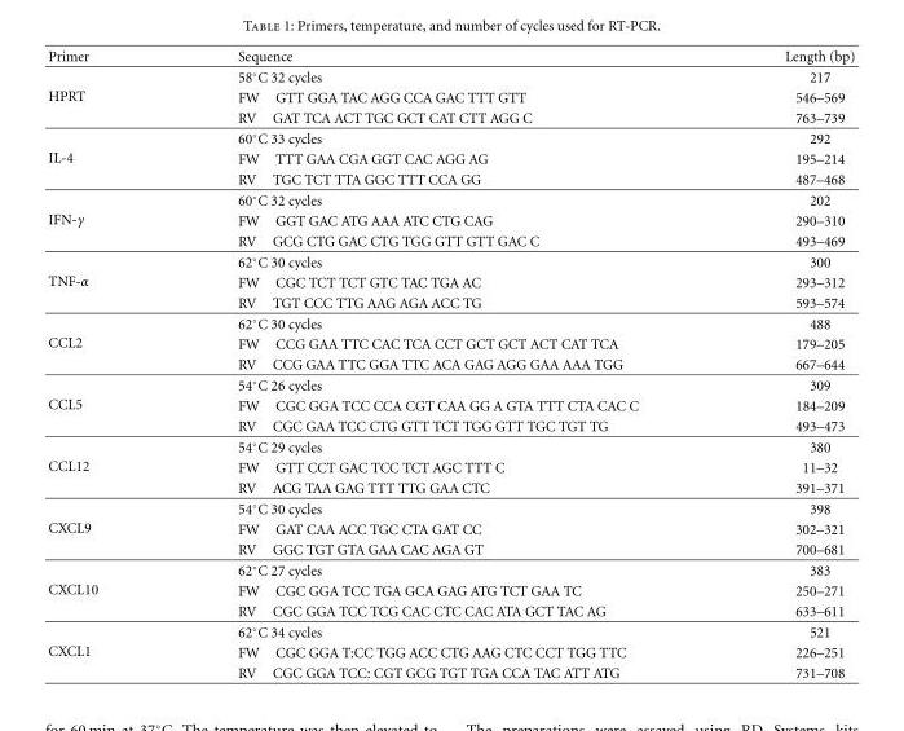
<table><thead><tr><td>Primer</td><td>Sequence</td><td>Length (bp)</td></tr></thead><tbody><tr><td rowspan="3">HPRT</td><td>58◦C 32 cycles</td><td>217</td></tr><tr><td>FW GTT GGA TAC AGG CCA GAC TTT GTT</td><td>546–569</td></tr><tr><td>RV GAT TCA ACT TGC GCT CAT CTT AGG C</td><td>763–739</td></tr><tr><td rowspan="3">IL-4</td><td>60◦C 33 cycles</td><td>292</td></tr><tr><td>FW TTT GAA CGA GGT CAC AGG AG</td><td>195–214</td></tr><tr><td>RV TGC TCT TTA GGC TTT CCA GG</td><td>487–468</td></tr><tr><td rowspan="3">IFN-γ</td><td>60◦C 32 cycles</td><td>202</td></tr><tr><td>FW GGT GAC ATG AAA ATC CTG CAG</td><td>290–310</td></tr><tr><td>RV GCG CTG GAC CTG TGG GTT GTT GAC C</td><td>493–469</td></tr><tr><td rowspan="3">TNF-α</td><td>62◦C 30 cycles</td><td>300</td></tr><tr><td>FW CGC TCT TCT GTC TAC TGA AC</td><td>293–312</td></tr><tr><td>RV TGT CCC TTG AAG AGA ACC TG</td><td>593–574</td></tr><tr><td rowspan="3">CCL2</td><td>62◦C 30 cycles</td><td>488</td></tr><tr><td>FW CCG GAA TTC CAC TCA CCT GCT GCT ACT CAT TCA</td><td>179–205</td></tr><tr><td>RV CCG GAA TTC GGA TTC ACA GAG AGG GAA AAA TGG</td><td>667–644</td></tr><tr><td rowspan="3">CCL5</td><td>54◦C 26 cycles</td><td>309</td></tr><tr><td>FW CGC GGA TCC CCA CGT CAA GG A GTA TTT CTA CAC C</td><td>184–209</td></tr><tr><td>RV CGC GAA TCC CTG GTT TCT TGG GTT TGC TGT TG</td><td>493–473</td></tr><tr><td rowspan="3">CCL12</td><td>54◦C 29 cycles</td><td>380</td></tr><tr><td>FW GTT CCT GAC TCC TCT AGC TTT C</td><td>11–32</td></tr><tr><td>RV ACG TAA GAG TTT TTG GAA CTC</td><td>391–371</td></tr><tr><td rowspan="3">CXCL9</td><td>54◦C 30 cycles</td><td>398</td></tr><tr><td>FW GAT CAA ACC TGC CTA GAT CC</td><td>302–321</td></tr><tr><td>RV GGC TGT GTA GAA CAC AGA GT</td><td>700–681</td></tr><tr><td rowspan="3">CXCL10</td><td>62◦C 27 cycles</td><td>383</td></tr><tr><td>FW CGC GGA TCC TGA GCA GAG ATG TCT GAA TC</td><td>250–271</td></tr><tr><td>RV CGC GGA TCC TCG CAC CTC CAC ATA GCT TAC AG</td><td>633–611</td></tr><tr><td rowspan="3">CXCL1</td><td>62◦C 34 cycles</td><td>521</td></tr><tr><td>FW CGC GGA T:CC TGG ACC CTG AAG CTC CCT TGG TTC</td><td>226–251</td></tr><tr><td>RV CGC GGA TCC: CGT GCG TGT TGA CCA TAC ATT ATG</td><td>731–708</td></tr></tbody></table>